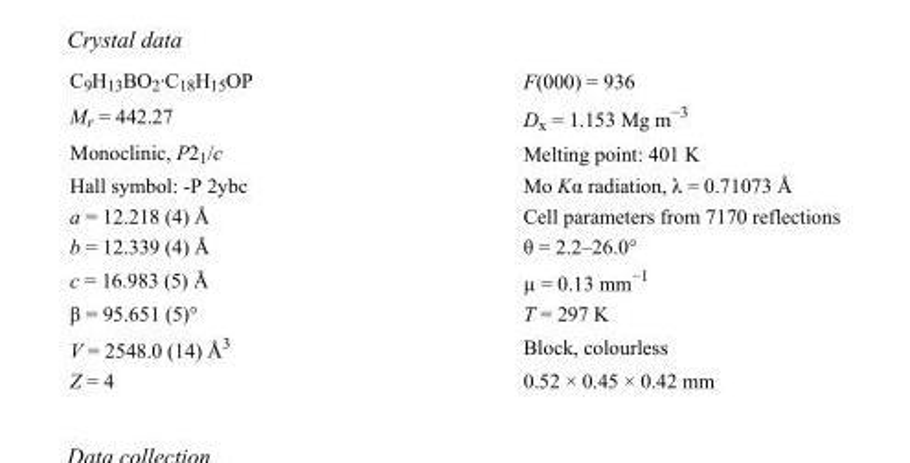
<table><tbody><tr><td>C<sub>9</sub>H<sub>13</sub>BO<sub>2</sub>·C<sub>18</sub>H<sub>15</sub>OP</td><td>F(000) = 936</td></tr><tr><td>M<sub>r</sub> = 442.27</td><td>D<sub>x</sub> = 1.153 Mg m<sup>−3</sup></td></tr><tr><td>Monoclinic, P2<sub>1</sub>/c</td><td>Melting point: 401 K</td></tr><tr><td>Hall symbol: -P 2ybc</td><td>Mo Kα radiation, λ = 0.71073 Å</td></tr><tr><td>a = 12.218 (4) Å</td><td>Cell parameters from 7170 reflections</td></tr><tr><td>b = 12.339 (4) Å</td><td>θ = 2.2–26.0°</td></tr><tr><td>c = 16.983 (5) Å</td><td>µ = 0.13 mm<sup>−1</sup></td></tr><tr><td>β = 95.651 (5)°</td><td>T = 297 K</td></tr><tr><td>V = 2548.0 (14) Å<sup>3</sup></td><td>Block, colourless</td></tr><tr><td>Z = 4</td><td>0.52 × 0.45 × 0.42 mm</td></tr></tbody></table>